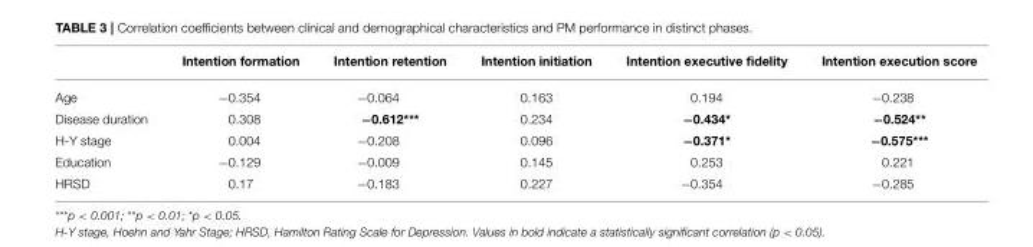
<table><thead><tr><td></td><td>Intention formation</td><td>Intention retention</td><td>Intention initiation</td><td>Intention executive fidelity</td><td>Intention execution score</td></tr></thead><tbody><tr><td>Age</td><td>−0.354</td><td>−0.064</td><td>0.163</td><td>0.194</td><td>−0.238</td></tr><tr><td>Disease duration</td><td>0.308</td><td>−0.612***</td><td>0.234</td><td>−0.434*</td><td>−0.524**</td></tr><tr><td>H-Y stage</td><td>0.004</td><td>−0.208</td><td>0.096</td><td>−0.371*</td><td>−0.575***</td></tr><tr><td>Education</td><td>−0.129</td><td>−0.009</td><td>0.145</td><td>0.253</td><td>0.221</td></tr><tr><td>HRSD</td><td>0.17</td><td>−0.183</td><td>0.227</td><td>−0.354</td><td>−0.285</td></tr></tbody></table>